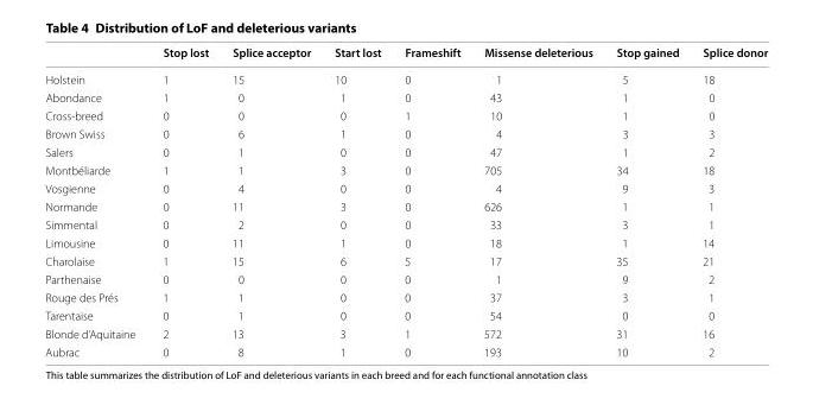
<table><thead><tr><td></td><td>Stop lost</td><td>Splice acceptor</td><td>Start lost</td><td>Frameshift</td><td>Missense deleterious</td><td>Stop gained</td><td>Splice donor</td></tr></thead><tbody><tr><td>Holstein</td><td>1</td><td>15</td><td>10</td><td>0</td><td>1</td><td>5</td><td>18</td></tr><tr><td>Abondance</td><td>1</td><td>0</td><td>1</td><td>0</td><td>43</td><td>1</td><td>0</td></tr><tr><td>Cross-breed</td><td>0</td><td>0</td><td>0</td><td>1</td><td>10</td><td>1</td><td>0</td></tr><tr><td>Brown Swiss</td><td>0</td><td>6</td><td>1</td><td>0</td><td>4</td><td>3</td><td>3</td></tr><tr><td>Salers</td><td>0</td><td>1</td><td>0</td><td>0</td><td>47</td><td>1</td><td>2</td></tr><tr><td>Montbéliarde</td><td>1</td><td>1</td><td>3</td><td>0</td><td>705</td><td>34</td><td>18</td></tr><tr><td>Vosgienne</td><td>0</td><td>4</td><td>0</td><td>0</td><td>4</td><td>9</td><td>3</td></tr><tr><td>Normande</td><td>0</td><td>11</td><td>3</td><td>0</td><td>626</td><td>1</td><td>1</td></tr><tr><td>Simmental</td><td>0</td><td>2</td><td>0</td><td>0</td><td>33</td><td>3</td><td>1</td></tr><tr><td>Limousine</td><td>0</td><td>11</td><td>1</td><td>0</td><td>18</td><td>1</td><td>14</td></tr><tr><td>Charolaise</td><td>1</td><td>15</td><td>6</td><td>5</td><td>17</td><td>35</td><td>21</td></tr><tr><td>Parthenaise</td><td>0</td><td>0</td><td>0</td><td>0</td><td>1</td><td>9</td><td>2</td></tr><tr><td>Rouge des Prés</td><td>1</td><td>1</td><td>0</td><td>0</td><td>37</td><td>3</td><td>1</td></tr><tr><td>Tarentaise</td><td>0</td><td>1</td><td>0</td><td>0</td><td>54</td><td>0</td><td>0</td></tr><tr><td>Blonde d’Aquitaine</td><td>2</td><td>13</td><td>3</td><td>1</td><td>572</td><td>31</td><td>16</td></tr><tr><td>Aubrac</td><td>0</td><td>8</td><td>1</td><td>0</td><td>193</td><td>10</td><td>2</td></tr></tbody></table>